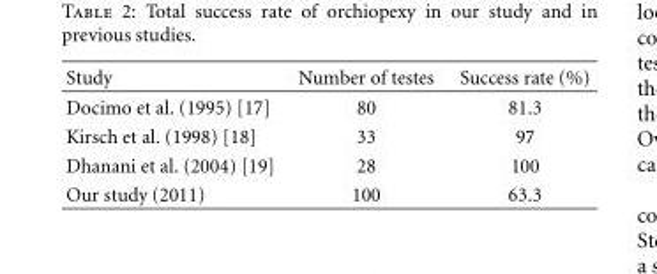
<table><thead><tr><td>Study</td><td>Number of testes</td><td>Success rate (%)</td></tr></thead><tbody><tr><td>Docimo et al. (1995) [17]</td><td>80</td><td>81.3</td></tr><tr><td>Kirsch et al. (1998) [18]</td><td>33</td><td>97</td></tr><tr><td>Dhanani et al. (2004) [19]</td><td>28</td><td>100</td></tr><tr><td>Our study (2011)</td><td>100</td><td>63.3</td></tr></tbody></table>